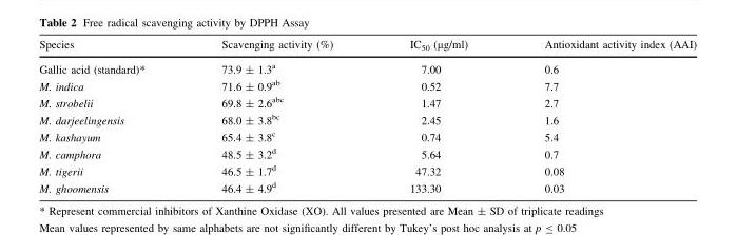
<table><thead><tr><td>Species</td><td>Scavenging activity (%)</td><td>IC<sub>50</sub> (μg/ml)</td><td>Antioxidant activity index (AAI)</td></tr></thead><tbody><tr><td>Gallic acid (standard)*</td><td>73.9 ± 1.3<sup>a</sup></td><td>7.00</td><td>0.6</td></tr><tr><td>M. indica</td><td>71.6 ± 0.9<sup>ab</sup></td><td>0.52</td><td>7.7</td></tr><tr><td>M. strobelii</td><td>69.8 ± 2.6<sup>abc</sup></td><td>1.47</td><td>2.7</td></tr><tr><td>M. darjeelingensis</td><td>68.0 ± 3.8<sup>bc</sup></td><td>2.45</td><td>1.6</td></tr><tr><td>M. kashayum</td><td>65.4 ± 3.8<sup>c</sup></td><td>0.74</td><td>5.4</td></tr><tr><td>M. camphora</td><td>48.5 ± 3.2<sup>d</sup></td><td>5.64</td><td>0.7</td></tr><tr><td>M. tigerii</td><td>46.5 ± 1.7<sup>d</sup></td><td>47.32</td><td>0.08</td></tr><tr><td>M. ghoomensis</td><td>46.4 ± 4.9<sup>d</sup></td><td>133.30</td><td>0.03</td></tr></tbody></table>